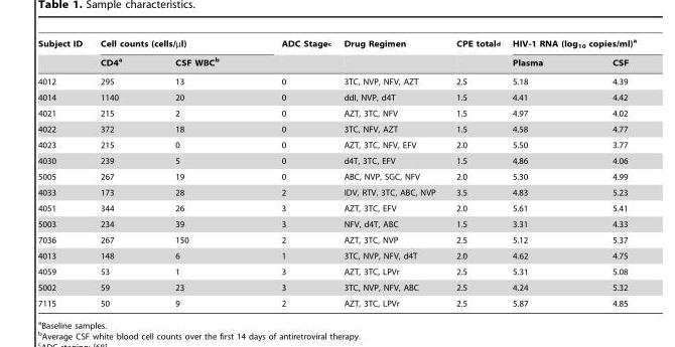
<table><thead><tr><td rowspan="2">Subject ID</td><td colspan="2">Cell counts (cells/µl)</td><td rowspan="2">ADC Stage<sup>c</sup></td><td rowspan="2">Drug Regimen</td><td rowspan="2">CPE total<sup>d</sup></td><td colspan="2">HIV-1 RNA (log<sub>10</sub> copies/ml)<sup>a</sup></td></tr><tr><td>CD4<sup>a</sup></td><td>CSF WBC<sup>b</sup></td><td>Plasma</td><td>CSF</td></tr></thead><tbody><tr><td>4012</td><td>295</td><td>13</td><td>0</td><td>3TC, NVP, NFV, AZT</td><td>2.5</td><td>5.18</td><td>4.39</td></tr><tr><td>4014</td><td>1140</td><td>20</td><td>0</td><td>ddI, NVP, d4T</td><td>1.5</td><td>4.41</td><td>4.42</td></tr><tr><td>4021</td><td>215</td><td>2</td><td>0</td><td>AZT, 3TC, NFV</td><td>1.5</td><td>4.97</td><td>4.02</td></tr><tr><td>4022</td><td>372</td><td>18</td><td>0</td><td>3TC, NFV, AZT</td><td>1.5</td><td>4.58</td><td>4.77</td></tr><tr><td>4023</td><td>215</td><td>0</td><td>0</td><td>AZT, 3TC, NFV, EFV</td><td>2.0</td><td>5.50</td><td>3.77</td></tr><tr><td>4030</td><td>239</td><td>5</td><td>0</td><td>d4T, 3TC, EFV</td><td>1.5</td><td>4.86</td><td>4.06</td></tr><tr><td>5005</td><td>267</td><td>19</td><td>0</td><td>ABC, NVP, SGC, NFV</td><td>2.0</td><td>5.30</td><td>4.99</td></tr><tr><td>4033</td><td>173</td><td>28</td><td>2</td><td>IDV, RTV, 3TC, ABC, NVP</td><td>3.5</td><td>4.83</td><td>5.23</td></tr><tr><td>4051</td><td>344</td><td>26</td><td>3</td><td>AZT, 3TC, EFV</td><td>2.0</td><td>5.61</td><td>5.41</td></tr><tr><td>5003</td><td>234</td><td>39</td><td>3</td><td>NFV, d4T, ABC</td><td>1.5</td><td>3.31</td><td>4.33</td></tr><tr><td>7036</td><td>267</td><td>150</td><td>2</td><td>AZT, 3TC, NVP</td><td>2.5</td><td>5.12</td><td>5.37</td></tr><tr><td>4013</td><td>148</td><td>6</td><td>1</td><td>3TC, NVP, NFV, d4T</td><td>2.0</td><td>4.62</td><td>4.75</td></tr><tr><td>4059</td><td>53</td><td>1</td><td>3</td><td>AZT, 3TC, LPVr</td><td>2.5</td><td>5.31</td><td>5.08</td></tr><tr><td>5002</td><td>59</td><td>23</td><td>3</td><td>3TC, NVP, NFV, ABC</td><td>2.5</td><td>4.24</td><td>5.32</td></tr><tr><td>7115</td><td>50</td><td>9</td><td>2</td><td>AZT, 3TC, LPVr</td><td>2.5</td><td>5.87</td><td>4.85</td></tr></tbody></table>